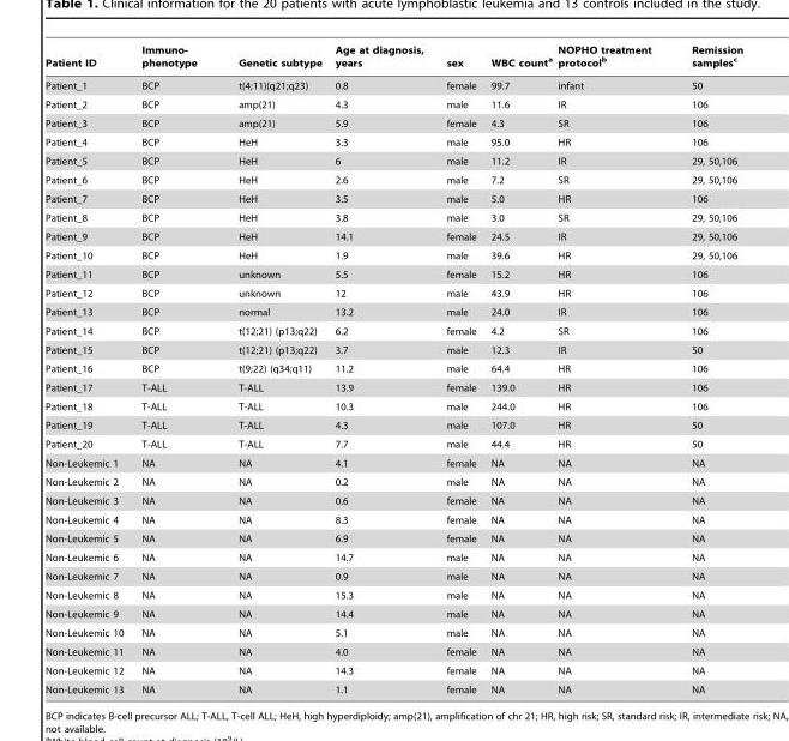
<table><thead><tr><td>Patient ID</td><td>Immuno- phenotype</td><td>Genetic subtype</td><td>Age at diagnosis, years</td><td>sex</td><td>WBC count<sup>a</sup></td><td>NOPHO treatment protocol<sup>b</sup></td><td>Remission samples<sup>c</sup></td></tr></thead><tbody><tr><td>Patient_1</td><td>BCP</td><td>t(4;11)(q21;q23)</td><td>0.8</td><td>female</td><td>99.7</td><td>infant</td><td>50</td></tr><tr><td>Patient_2</td><td>BCP</td><td>amp(21)</td><td>4.3</td><td>male</td><td>11.6</td><td>IR</td><td>106</td></tr><tr><td>Patient_3</td><td>BCP</td><td>amp(21)</td><td>5.9</td><td>female</td><td>4.3</td><td>SR</td><td>106</td></tr><tr><td>Patient_4</td><td>BCP</td><td>HeH</td><td>3.3</td><td>male</td><td>95.0</td><td>HR</td><td>106</td></tr><tr><td>Patient_5</td><td>BCP</td><td>HeH</td><td>6</td><td>male</td><td>11.2</td><td>IR</td><td>29, 50,106</td></tr><tr><td>Patient_6</td><td>BCP</td><td>HeH</td><td>2.6</td><td>male</td><td>7.2</td><td>SR</td><td>29, 50,106</td></tr><tr><td>Patient_7</td><td>BCP</td><td>HeH</td><td>3.5</td><td>male</td><td>5.0</td><td>HR</td><td>106</td></tr><tr><td>Patient_8</td><td>BCP</td><td>HeH</td><td>3.8</td><td>male</td><td>3.0</td><td>SR</td><td>29, 50,106</td></tr><tr><td>Patient_9</td><td>BCP</td><td>HeH</td><td>14.1</td><td>female</td><td>24.5</td><td>IR</td><td>29, 50,106</td></tr><tr><td>Patient_10</td><td>BCP</td><td>HeH</td><td>1.9</td><td>male</td><td>39.6</td><td>HR</td><td>29, 50,106</td></tr><tr><td>Patient_11</td><td>BCP</td><td>unknown</td><td>5.5</td><td>female</td><td>15.2</td><td>HR</td><td>106</td></tr><tr><td>Patient_12</td><td>BCP</td><td>unknown</td><td>12</td><td>male</td><td>43.9</td><td>HR</td><td>106</td></tr><tr><td>Patient_13</td><td>BCP</td><td>normal</td><td>13.2</td><td>male</td><td>24.0</td><td>IR</td><td>106</td></tr><tr><td>Patient_14</td><td>BCP</td><td>t(12;21) (p13;q22)</td><td>6.2</td><td>female</td><td>4.2</td><td>SR</td><td>106</td></tr><tr><td>Patient_15</td><td>BCP</td><td>t(12;21) (p13;q22)</td><td>3.7</td><td>male</td><td>12.3</td><td>IR</td><td>50</td></tr><tr><td>Patient_16</td><td>BCP</td><td>t(9;22) (q34;q11)</td><td>11.2</td><td>male</td><td>64.4</td><td>HR</td><td>106</td></tr><tr><td>Patient_17</td><td>T-ALL</td><td>T-ALL</td><td>13.9</td><td>female</td><td>139.0</td><td>HR</td><td>106</td></tr><tr><td>Patient_18</td><td>T-ALL</td><td>T-ALL</td><td>10.3</td><td>male</td><td>244.0</td><td>HR</td><td>106</td></tr><tr><td>Patient_19</td><td>T-ALL</td><td>T-ALL</td><td>4.3</td><td>male</td><td>107.0</td><td>HR</td><td>50</td></tr><tr><td>Patient_20</td><td>T-ALL</td><td>T-ALL</td><td>7.7</td><td>male</td><td>44.4</td><td>HR</td><td>50</td></tr><tr><td>Non-Leukemic 1</td><td>NA</td><td>NA</td><td>4.1</td><td>female</td><td>NA</td><td>NA</td><td>NA</td></tr><tr><td>Non-Leukemic 2</td><td>NA</td><td>NA</td><td>0.2</td><td>male</td><td>NA</td><td>NA</td><td>NA</td></tr><tr><td>Non-Leukemic 3</td><td>NA</td><td>NA</td><td>0.6</td><td>female</td><td>NA</td><td>NA</td><td>NA</td></tr><tr><td>Non-Leukemic 4</td><td>NA</td><td>NA</td><td>8.3</td><td>female</td><td>NA</td><td>NA</td><td>NA</td></tr><tr><td>Non-Leukemic 5</td><td>NA</td><td>NA</td><td>6.9</td><td>female</td><td>NA</td><td>NA</td><td>NA</td></tr><tr><td>Non-Leukemic 6</td><td>NA</td><td>NA</td><td>14.7</td><td>male</td><td>NA</td><td>NA</td><td>NA</td></tr><tr><td>Non-Leukemic 7</td><td>NA</td><td>NA</td><td>0.9</td><td>male</td><td>NA</td><td>NA</td><td>NA</td></tr><tr><td>Non-Leukemic 8</td><td>NA</td><td>NA</td><td>15.3</td><td>male</td><td>NA</td><td>NA</td><td>NA</td></tr><tr><td>Non-Leukemic 9</td><td>NA</td><td>NA</td><td>14.4</td><td>male</td><td>NA</td><td>NA</td><td>NA</td></tr><tr><td>Non-Leukemic 10</td><td>NA</td><td>NA</td><td>5.1</td><td>male</td><td>NA</td><td>NA</td><td>NA</td></tr><tr><td>Non-Leukemic 11</td><td>NA</td><td>NA</td><td>4.0</td><td>female</td><td>NA</td><td>NA</td><td>NA</td></tr><tr><td>Non-Leukemic 12</td><td>NA</td><td>NA</td><td>14.3</td><td>female</td><td>NA</td><td>NA</td><td>NA</td></tr><tr><td>Non-Leukemic 13</td><td>NA</td><td>NA</td><td>1.1</td><td>female</td><td>NA</td><td>NA</td><td>NA</td></tr></tbody></table>